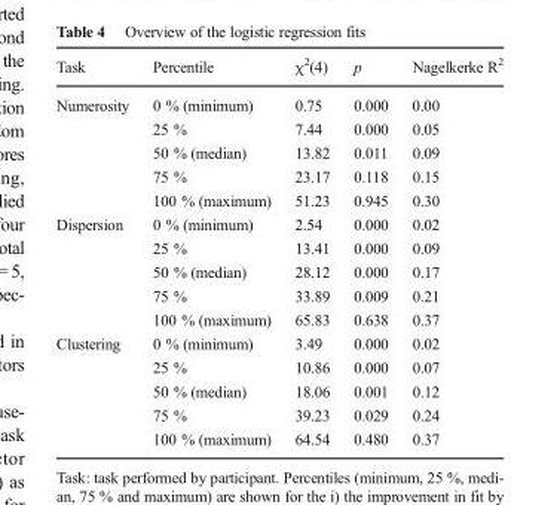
<table><thead><tr><td>Task</td><td>Percentile</td><td>χ<sup>2</sup>(4)</td><td>p</td><td>Nagelkerke R<sup>2</sup></td></tr></thead><tbody><tr><td rowspan="5">Numerosity</td><td>0 % (minimum)</td><td>0.75</td><td>0.000</td><td>0.00</td></tr><tr><td>25 %</td><td>7.44</td><td>0.000</td><td>0.05</td></tr><tr><td>50 % (median)</td><td>13.82</td><td>0.011</td><td>0.09</td></tr><tr><td>75 %</td><td>23.17</td><td>0.118</td><td>0.15</td></tr><tr><td>100 % (maximum)</td><td>51.23</td><td>0.945</td><td>0.30</td></tr><tr><td rowspan="5">Dispersion</td><td>0 % (minimum)</td><td>2.54</td><td>0.000</td><td>0.02</td></tr><tr><td>25 %</td><td>13.41</td><td>0.000</td><td>0.09</td></tr><tr><td>50 % (median)</td><td>28.12</td><td>0.000</td><td>0.17</td></tr><tr><td>75 %</td><td>33.89</td><td>0.009</td><td>0.21</td></tr><tr><td>100 % (maximum)</td><td>65.83</td><td>0.638</td><td>0.37</td></tr><tr><td rowspan="5">Clustering</td><td>0 % (minimum)</td><td>3.49</td><td>0.000</td><td>0.02</td></tr><tr><td>25 %</td><td>10.86</td><td>0.000</td><td>0.07</td></tr><tr><td>50 % (median)</td><td>18.06</td><td>0.001</td><td>0.12</td></tr><tr><td>75 %</td><td>39.23</td><td>0.029</td><td>0.24</td></tr><tr><td>100 % (maximum)</td><td>64.54</td><td>0.480</td><td>0.37</td></tr></tbody></table>